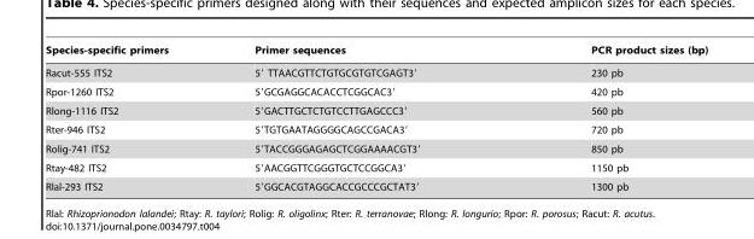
<table><thead><tr><td>Species-specific primers</td><td>Primer sequences</td><td>PCR product sizes (bp)</td></tr></thead><tbody><tr><td>Racut-555 ITS2</td><td>5′ TTAACGTTCTGTGCGTGTCGAGT3′</td><td>230 pb</td></tr><tr><td>Rpor-1260 ITS2</td><td>5′GCGAGGCACACCTCGGCAC3′</td><td>420 pb</td></tr><tr><td>Rlong-1116 ITS2</td><td>5′GACTTGCTCTGTCCTTGAGCCC3′</td><td>560 pb</td></tr><tr><td>Rter-946 ITS2</td><td>5′TGTGAATAGGGGCAGCCGACA3′</td><td>720 pb</td></tr><tr><td>Rolig-741 ITS2</td><td>5′TACCGGGAGAGCTCGGAAAACGT3′</td><td>850 pb</td></tr><tr><td>Rtay-482 ITS2</td><td>5′AACGGTTCGGGTGCTCCGGCA3′</td><td>1150 pb</td></tr><tr><td>Rlal-293 ITS2</td><td>5′GGCACGTAGGCACCGCCCGCTAT3′</td><td>1300 pb</td></tr></tbody></table>